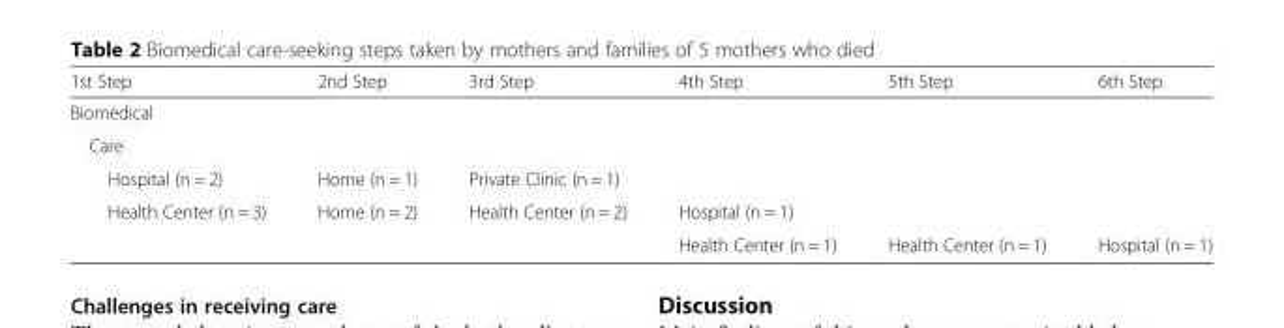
<table><thead><tr><td>1st Step</td><td>2nd Step</td><td>3rd Step</td><td>4th Step</td><td>5th Step</td><td>6th Step</td></tr></thead><tbody><tr><td colspan="6">Biomedical</td></tr><tr><td colspan="6">Care</td></tr><tr><td>Hospital (n = 2)</td><td>Home (n = 1)</td><td>Private Clinic (n = 1)</td><td></td><td></td><td></td></tr><tr><td rowspan="2">Health Center (n = 3)</td><td>Home (n = 2)</td><td>Health Center (n = 2)</td><td>Hospital (n = 1)</td><td></td><td></td></tr><tr><td></td><td></td><td>Health Center (n = 1)</td><td>Health Center (n = 1)</td><td>Hospital (n = 1)</td></tr></tbody></table>